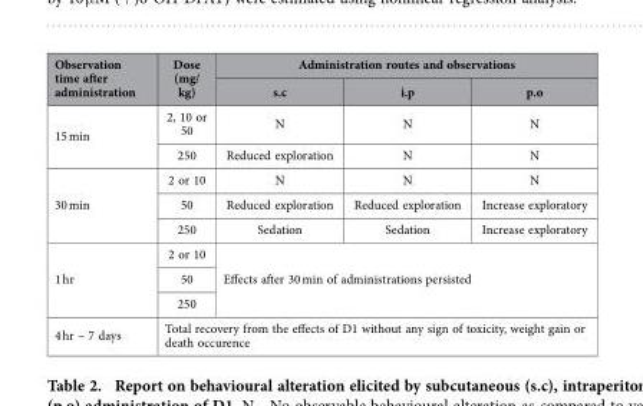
<table><thead><tr><td rowspan="2">Observation time after administration</td><td rowspan="2">Dose (mg/ kg)</td><td colspan="3">Administration routes and observations</td></tr><tr><td>s.c</td><td>i.p</td><td>p.o</td></tr></thead><tbody><tr><td rowspan="2">15 min</td><td>2, 10 or 50</td><td>N</td><td>N</td><td>N</td></tr><tr><td>250</td><td>Reduced exploration</td><td>N</td><td>N</td></tr><tr><td rowspan="3">30 min</td><td>2 or 10</td><td>N</td><td>N</td><td>N</td></tr><tr><td>50</td><td>Reduced exploration</td><td>Reduced exploration</td><td>Increase exploratory</td></tr><tr><td>250</td><td>Sedation</td><td>Sedation</td><td>Increase exploratory</td></tr><tr><td rowspan="3">1 hr</td><td>2 or 10</td><td rowspan="3" colspan="3">Effects after 30 min of administrations persisted</td></tr><tr><td>50</td></tr><tr><td>250</td></tr><tr><td>4 hr – 7 days</td><td colspan="4">Total recovery from the effects of D1 without any sign of toxicity, weight gain or death occurence</td></tr></tbody></table>